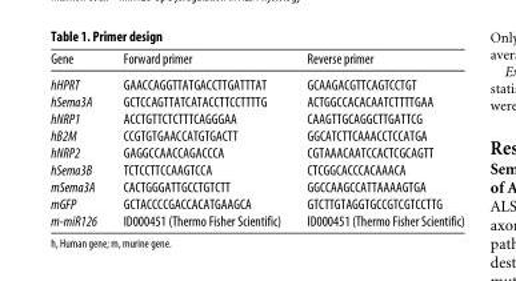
<table><thead><tr><td>Gene</td><td>Forward primer</td><td>Reverse primer</td></tr></thead><tbody><tr><td>hHPRT</td><td>GAACCAGGTTATGACCTTGATTTAT</td><td>GCAAGACGTTCAGTCCTGT</td></tr><tr><td>hSema3A</td><td>GCTCCAGTTATCATACCTTCCTTTTG</td><td>ACTGGCCACACAATCTTTTGAA</td></tr><tr><td>hNRP1</td><td>ACCTGTTCTCTTTCAGGGAA</td><td>CAAGTTGCAGGCTTGATTCG</td></tr><tr><td>hB2M</td><td>CCGTGTGAACCATGTGACTT</td><td>GGCATCTTCAAACCTCCATGA</td></tr><tr><td>hNRP2</td><td>GAGGCCAACCAGACCCA</td><td>CGTAAACAATCCACTCGCAGTT</td></tr><tr><td>hSema3B</td><td>TCTCCTTCCAAGTCCA</td><td>CTCGGCACCCACAAACA</td></tr><tr><td>mSema3A</td><td>CACTGGGATTGCCTGTCTT</td><td>GGCCAAGCCATTAAAAGTGA</td></tr><tr><td>mGFP</td><td>GCTACCCCGACCACATGAAGCA</td><td>GTCTTGTAGGTGCCGTCGTCCTTG</td></tr><tr><td>m-miR126</td><td>ID000451 (Thermo Fisher Scientific)</td><td>ID000451 (Thermo Fisher Scientific)</td></tr></tbody></table>